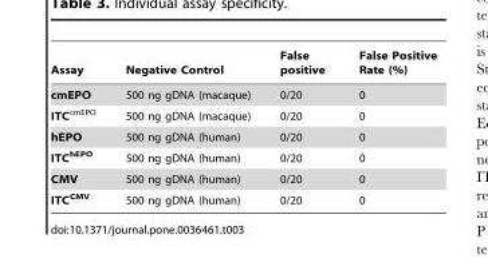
<table><thead><tr><td>Assay</td><td>Negative Control</td><td>False positive</td><td>False Positive Rate (%)</td></tr></thead><tbody><tr><td>cmEPO</td><td>500 ng gDNA (macaque)</td><td>0/20</td><td>0</td></tr><tr><td>ITC<sup>cmEPO</sup></td><td>500 ng gDNA (macaque)</td><td>0/20</td><td>0</td></tr><tr><td>hEPO</td><td>500 ng gDNA (human)</td><td>0/20</td><td>0</td></tr><tr><td>ITC<sup>hEPO</sup></td><td>500 ng gDNA (human)</td><td>0/20</td><td>0</td></tr><tr><td>CMV</td><td>500 ng gDNA (human)</td><td>0/20</td><td>0</td></tr><tr><td>ITC<sup>CMV</sup></td><td>500 ng gDNA (human)</td><td>0/20</td><td>0</td></tr></tbody></table>